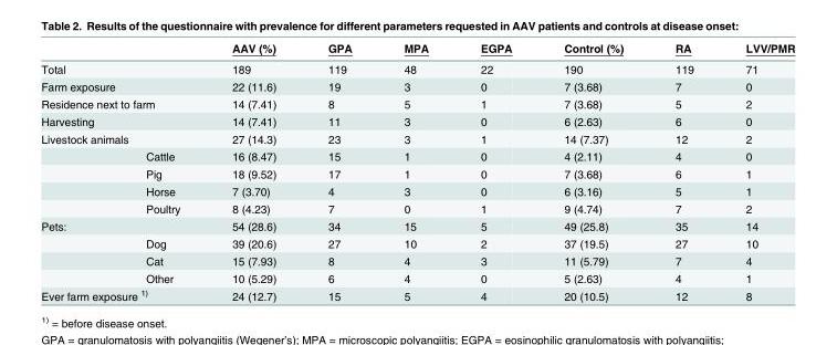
<table><thead><tr><td></td><td></td><td>AAV (%)</td><td>GPA</td><td>MPA</td><td>EGPA</td><td>Control (%)</td><td>RA</td><td>LVV/PMR</td></tr></thead><tbody><tr><td>Total</td><td></td><td>189</td><td>119</td><td>48</td><td>22</td><td>190</td><td>119</td><td>71</td></tr><tr><td colspan="2">Farm exposure</td><td>22 (11.6)</td><td>19</td><td>3</td><td>0</td><td>7 (3.68)</td><td>7</td><td>0</td></tr><tr><td colspan="2">Residence next to farm</td><td>14 (7.41)</td><td>8</td><td>5</td><td>1</td><td>7 (3.68)</td><td>5</td><td>2</td></tr><tr><td>Harvesting</td><td></td><td>14 (7.41)</td><td>11</td><td>3</td><td>0</td><td>6 (2.63)</td><td>6</td><td>0</td></tr><tr><td colspan="2">Livestock animals</td><td>27 (14.3)</td><td>23</td><td>3</td><td>1</td><td>14 (7.37)</td><td>12</td><td>2</td></tr><tr><td></td><td>Cattle</td><td>16 (8.47)</td><td>15</td><td>1</td><td>0</td><td>4 (2.11)</td><td>4</td><td>0</td></tr><tr><td></td><td>Pig</td><td>18 (9.52)</td><td>17</td><td>1</td><td>0</td><td>7 (3.68)</td><td>6</td><td>1</td></tr><tr><td></td><td>Horse</td><td>7 (3.70)</td><td>4</td><td>3</td><td>0</td><td>6 (3.16)</td><td>5</td><td>1</td></tr><tr><td></td><td>Poultry</td><td>8 (4.23)</td><td>7</td><td>0</td><td>1</td><td>9 (4.74)</td><td>7</td><td>2</td></tr><tr><td rowspan="4">Pets:</td><td></td><td>54 (28.6)</td><td>34</td><td>15</td><td>5</td><td>49 (25.8)</td><td>35</td><td>14</td></tr><tr><td>Dog</td><td>39 (20.6)</td><td>27</td><td>10</td><td>2</td><td>37 (19.5)</td><td>27</td><td>10</td></tr><tr><td>Cat</td><td>15 (7.93)</td><td>8</td><td>4</td><td>3</td><td>11 (5.79)</td><td>7</td><td>4</td></tr><tr><td>Other</td><td>10 (5.29)</td><td>6</td><td>4</td><td>0</td><td>5 (2.63)</td><td>4</td><td>1</td></tr><tr><td colspan="2">Ever farm exposure <sup>1)</sup></td><td>24 (12.7)</td><td>15</td><td>5</td><td>4</td><td>20 (10.5)</td><td>12</td><td>8</td></tr></tbody></table>